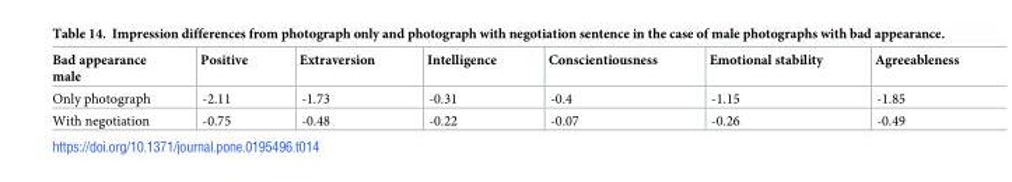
<table><thead><tr><td>Bad appearance male</td><td>Positive</td><td>Extraversion</td><td>Intelligence</td><td>Conscientiousness</td><td>Emotional stability</td><td>Agreeableness</td></tr></thead><tbody><tr><td>Only photograph</td><td>-2.11</td><td>-1.73</td><td>-0.31</td><td>-0.4</td><td>-1.15</td><td>-1.85</td></tr><tr><td>With negotiation</td><td>-0.75</td><td>-0.48</td><td>-0.22</td><td>-0.07</td><td>-0.26</td><td>-0.49</td></tr></tbody></table>